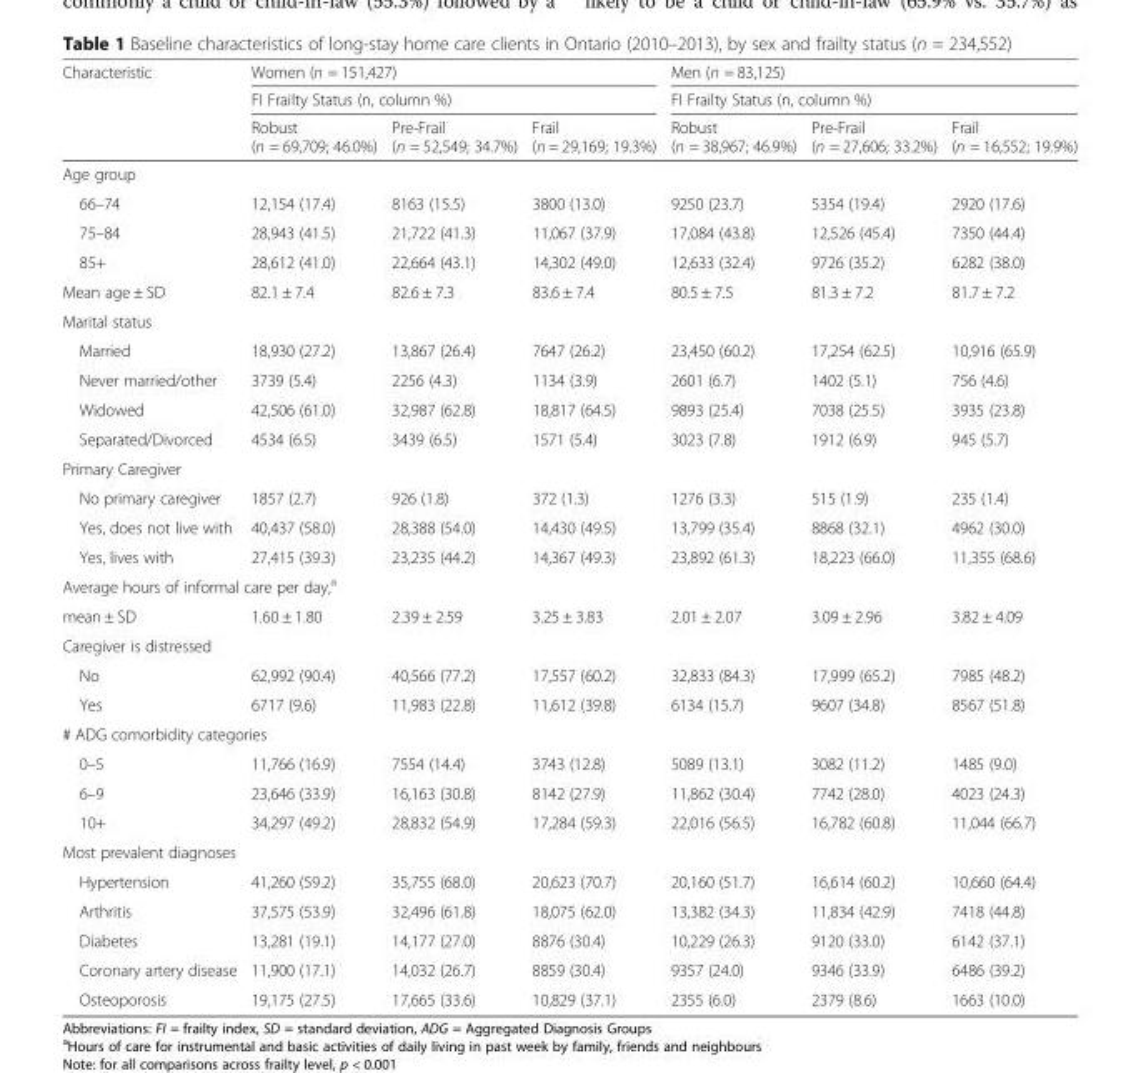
<table><thead><tr><td rowspan="3">Characteristic</td><td rowspan="2" colspan="3">Women (n = 151,427) FI Frailty Status (n, column %)</td><td rowspan="2" colspan="3">Men (n = 83,125) FI Frailty Status (n, column %)</td></tr><tr></tr><tr><td>Robust (n = 69,709; 46.0%)</td><td>Pre-Frail (n = 52,549; 34.7%)</td><td>Frail (n = 29,169; 19.3%)</td><td>Robust (n = 38,967; 46.9%)</td><td>Pre-Frail (n = 27,606; 33.2%)</td><td>Frail (n = 16,552; 19.9%)</td></tr></thead><tbody><tr><td colspan="7">Age group</td></tr><tr><td>66–74</td><td>12,154 (17.4)</td><td>8163 (15.5)</td><td>3800 (13.0)</td><td>9250 (23.7)</td><td>5354 (19.4)</td><td>2920 (17.6)</td></tr><tr><td>75–84</td><td>28,943 (41.5)</td><td>21,722 (41.3)</td><td>11,067 (37.9)</td><td>17,084 (43.8)</td><td>12,526 (45.4)</td><td>7350 (44.4)</td></tr><tr><td>85+</td><td>28,612 (41.0)</td><td>22,664 (43.1)</td><td>14,302 (49.0)</td><td>12,633 (32.4)</td><td>9726 (35.2)</td><td>6282 (38.0)</td></tr><tr><td>Mean age ± SD</td><td>82.1 ± 7.4</td><td>82.6 ± 7.3</td><td>83.6 ± 7.4</td><td>80.5 ± 7.5</td><td>81.3 ± 7.2</td><td>81.7 ± 7.2</td></tr><tr><td colspan="7">Marital status</td></tr><tr><td>Married</td><td>18,930 (27.2)</td><td>13,867 (26.4)</td><td>7647 (26.2)</td><td>23,450 (60.2)</td><td>17,254 (62.5)</td><td>10,916 (65.9)</td></tr><tr><td>Never married/other</td><td>3739 (5.4)</td><td>2256 (4.3)</td><td>1134 (3.9)</td><td>2601 (6.7)</td><td>1402 (5.1)</td><td>756 (4.6)</td></tr><tr><td>Widowed</td><td>42,506 (61.0)</td><td>32,987 (62.8)</td><td>18,817 (64.5)</td><td>9893 (25.4)</td><td>7038 (25.5)</td><td>3935 (23.8)</td></tr><tr><td>Separated/Divorced</td><td>4534 (6.5)</td><td>3439 (6.5)</td><td>1571 (5.4)</td><td>3023 (7.8)</td><td>1912 (6.9)</td><td>945 (5.7)</td></tr><tr><td colspan="7">Primary Caregiver</td></tr><tr><td>No primary caregiver</td><td>1857 (2.7)</td><td>926 (1.8)</td><td>372 (1.3)</td><td>1276 (3.3)</td><td>515 (1.9)</td><td>235 (1.4)</td></tr><tr><td>Yes, does not live with</td><td>40,437 (58.0)</td><td>28,388 (54.0)</td><td>14,430 (49.5)</td><td>13,799 (35.4)</td><td>8868 (32.1)</td><td>4962 (30.0)</td></tr><tr><td>Yes, lives with</td><td>27,415 (39.3)</td><td>23,235 (44.2)</td><td>14,367 (49.3)</td><td>23,892 (61.3)</td><td>18,223 (66.0)</td><td>11,355 (68.6)</td></tr><tr><td colspan="7">Average hours of informal care per day,<sup>a</sup></td></tr><tr><td>mean ± SD</td><td>1.60 ± 1.80</td><td>2.39 ± 2.59</td><td>3.25 ± 3.83</td><td>2.01 ± 2.07</td><td>3.09 ± 2.96</td><td>3.82 ± 4.09</td></tr><tr><td colspan="7">Caregiver is distressed</td></tr><tr><td>No</td><td>62,992 (90.4)</td><td>40,566 (77.2)</td><td>17,557 (60.2)</td><td>32,833 (84.3)</td><td>17,999 (65.2)</td><td>7985 (48.2)</td></tr><tr><td>Yes</td><td>6717 (9.6)</td><td>11,983 (22.8)</td><td>11,612 (39.8)</td><td>6134 (15.7)</td><td>9607 (34.8)</td><td>8567 (51.8)</td></tr><tr><td colspan="7"># ADG comorbidity categories</td></tr><tr><td>0–5</td><td>11,766 (16.9)</td><td>7554 (14.4)</td><td>3743 (12.8)</td><td>5089 (13.1)</td><td>3082 (11.2)</td><td>1485 (9.0)</td></tr><tr><td>6–9</td><td>23,646 (33.9)</td><td>16,163 (30.8)</td><td>8142 (27.9)</td><td>11,862 (30.4)</td><td>7742 (28.0)</td><td>4023 (24.3)</td></tr><tr><td>10+</td><td>34,297 (49.2)</td><td>28,832 (54.9)</td><td>17,284 (59.3)</td><td>22,016 (56.5)</td><td>16,782 (60.8)</td><td>11,044 (66.7)</td></tr><tr><td colspan="7">Most prevalent diagnoses</td></tr><tr><td>Hypertension</td><td>41,260 (59.2)</td><td>35,755 (68.0)</td><td>20,623 (70.7)</td><td>20,160 (51.7)</td><td>16,614 (60.2)</td><td>10,660 (64.4)</td></tr><tr><td>Arthritis</td><td>37,575 (53.9)</td><td>32,496 (61.8)</td><td>18,075 (62.0)</td><td>13,382 (34.3)</td><td>11,834 (42.9)</td><td>7418 (44.8)</td></tr><tr><td>Diabetes</td><td>13,281 (19.1)</td><td>14,177 (27.0)</td><td>8876 (30.4)</td><td>10,229 (26.3)</td><td>9120 (33.0)</td><td>6142 (37.1)</td></tr><tr><td>Coronary artery disease</td><td>11,900 (17.1)</td><td>14,032 (26.7)</td><td>8859 (30.4)</td><td>9357 (24.0)</td><td>9346 (33.9)</td><td>6486 (39.2)</td></tr><tr><td>Osteoporosis</td><td>19,175 (27.5)</td><td>17,665 (33.6)</td><td>10,829 (37.1)</td><td>2355 (6.0)</td><td>2379 (8.6)</td><td>1663 (10.0)</td></tr></tbody></table>